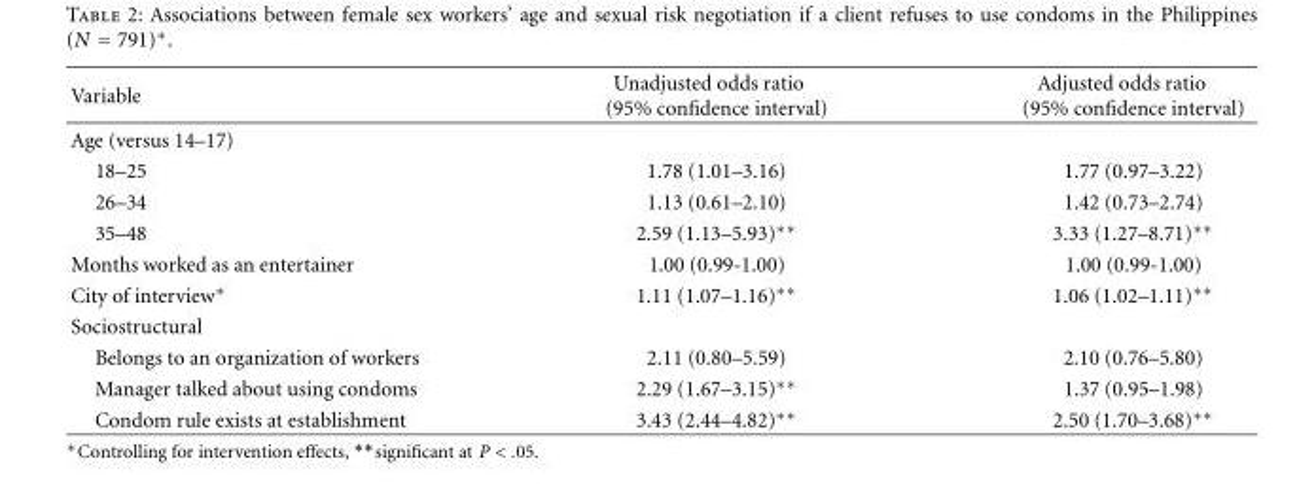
<table><thead><tr><td>Variable</td><td>Unadjusted odds ratio (95% confidence interval)</td><td>Adjusted odds ratio (95% confidence interval)</td></tr></thead><tbody><tr><td colspan="3">Age (versus 14–17)</td></tr><tr><td>18–25</td><td>1.78 (1.01–3.16)</td><td>1.77 (0.97–3.22)</td></tr><tr><td>26–34</td><td>1.13 (0.61–2.10)</td><td>1.42 (0.73–2.74)</td></tr><tr><td>35–48</td><td>2.59 (1.13–5.93)∗∗</td><td>3.33 (1.27–8.71)∗∗</td></tr><tr><td>Months worked as an entertainer</td><td>1.00 (0.99-1.00)</td><td>1.00 (0.99-1.00)</td></tr><tr><td>City of interview∗</td><td>1.11 (1.07–1.16)∗∗</td><td>1.06 (1.02–1.11)∗∗</td></tr><tr><td colspan="3">Sociostructural</td></tr><tr><td>Belongs to an organization of workers</td><td>2.11 (0.80–5.59)</td><td>2.10 (0.76–5.80)</td></tr><tr><td>Manager talked about using condoms</td><td>2.29 (1.67–3.15)∗∗</td><td>1.37 (0.95–1.98)</td></tr><tr><td>Condom rule exists at establishment</td><td>3.43 (2.44–4.82)∗∗</td><td>2.50 (1.70–3.68)∗∗</td></tr></tbody></table>